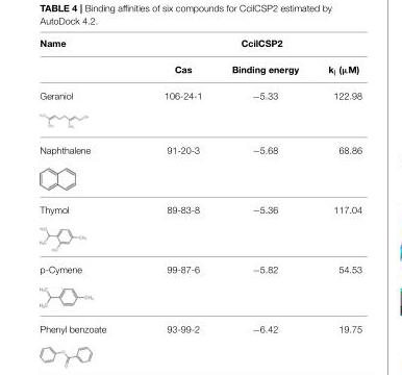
<table><thead><tr><td rowspan="2">Name</td><td colspan="3">CcilCSP2</td></tr><tr><td>Cas</td><td>Binding energy</td><td>k<sub>l</sub> (µM)</td></tr></thead><tbody><tr><td>Geraniol</td><td>106-24-1</td><td>−5.33</td><td>122.98</td></tr><tr><td>Naphthalene</td><td>91-20-3</td><td>−5.68</td><td>68.86</td></tr><tr><td>Thymol</td><td>89-83-8</td><td>−5.36</td><td>117.04</td></tr><tr><td>p-Cymene</td><td>99-87-6</td><td>−5.82</td><td>54.53</td></tr><tr><td>Phenyl benzoate</td><td>93-99-2</td><td>−6.42</td><td>19.75</td></tr></tbody></table>